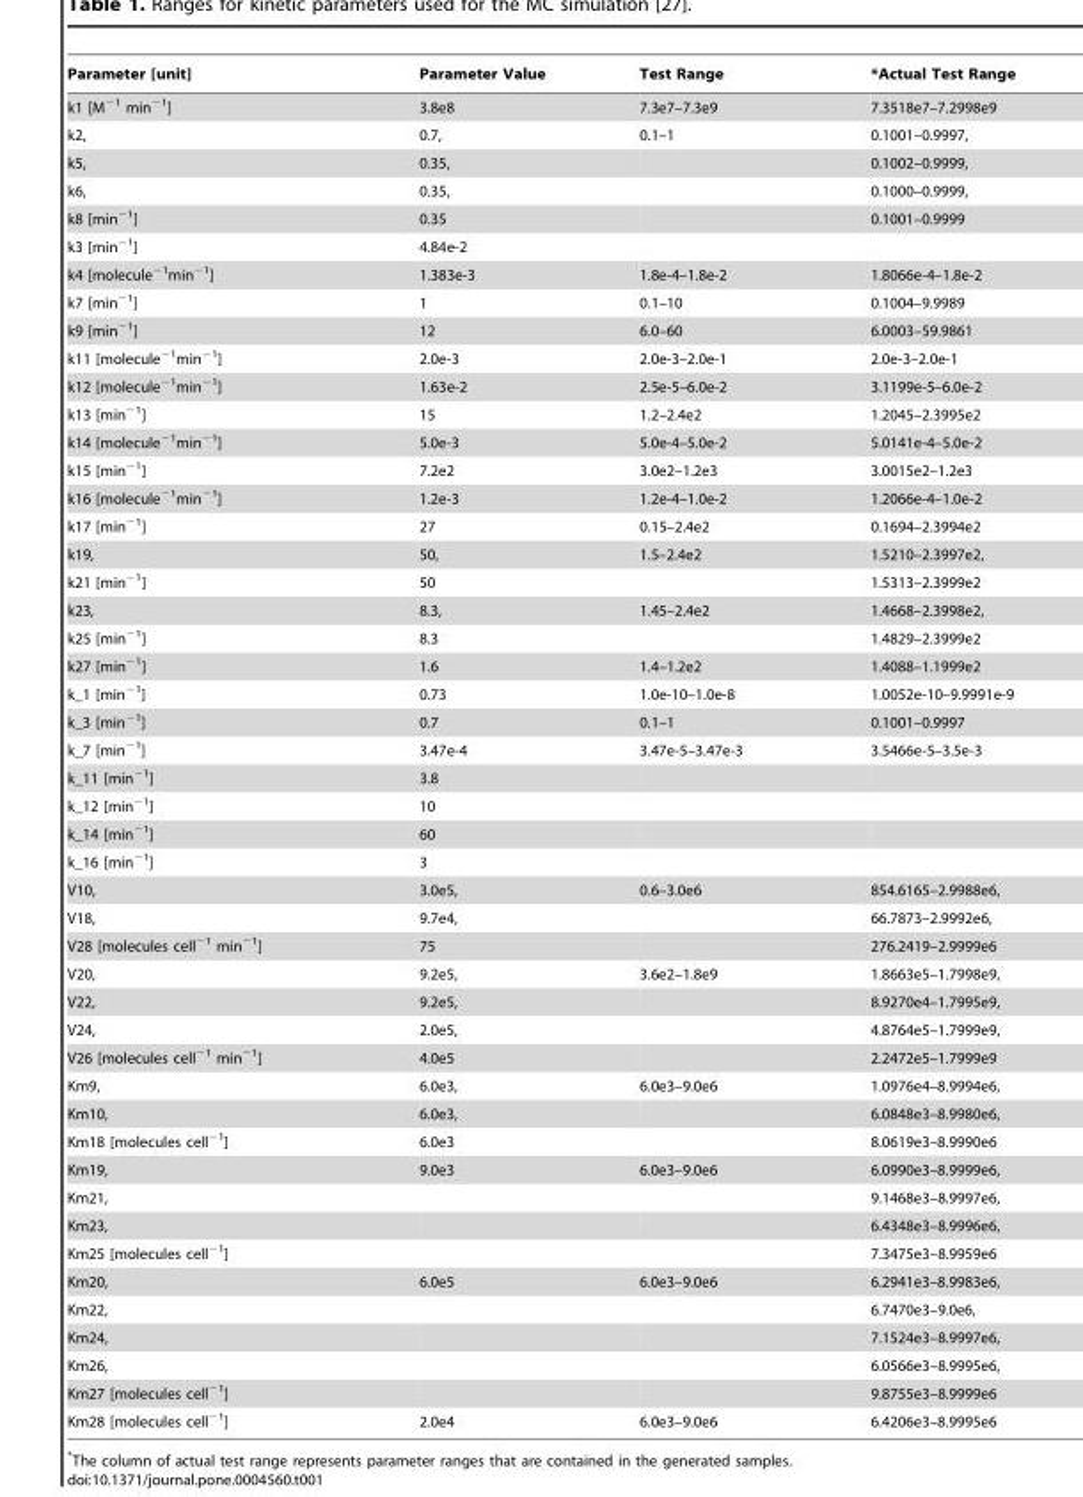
<table><thead><tr><td>Parameter [unit]</td><td>Parameter Value</td><td>Test Range</td><td>*Actual Test Range</td></tr></thead><tbody><tr><td>k1 [M<sup>−1</sup> min<sup>−1</sup>]</td><td>3.8e8</td><td>7.3e7–7.3e9</td><td>7.3518e7–7.2998e9</td></tr><tr><td>k2,</td><td>0.7,</td><td>0.1–1</td><td>0.1001–0.9997,</td></tr><tr><td>k5,</td><td>0.35,</td><td></td><td>0.1002–0.9999,</td></tr><tr><td>k6,</td><td>0.35,</td><td></td><td>0.1000–0.9999,</td></tr><tr><td>k8 [min<sup>−1</sup>]</td><td>0.35</td><td></td><td>0.1001–0.9999</td></tr><tr><td>k3 [min<sup>−1</sup>]</td><td>4.84e-2</td><td></td><td></td></tr><tr><td>k4 [molecule<sup>−1</sup>min<sup>−1</sup>]</td><td>1.383e-3</td><td>1.8e-4–1.8e-2</td><td>1.8066e-4–1.8e-2</td></tr><tr><td>k7 [min<sup>−1</sup>]</td><td>1</td><td>0.1–10</td><td>0.1004–9.9989</td></tr><tr><td>k9 [min<sup>−1</sup>]</td><td>12</td><td>6.0–60</td><td>6.0003–59.9861</td></tr><tr><td>k11 [molecule<sup>−1</sup>min<sup>−1</sup>]</td><td>2.0e-3</td><td>2.0e-3–2.0e-1</td><td>2.0e-3–2.0e-1</td></tr><tr><td>k12 [molecule<sup>−1</sup>min<sup>−1</sup>]</td><td>1.63e-2</td><td>2.5e-5–6.0e-2</td><td>3.1199e-5–6.0e-2</td></tr><tr><td>k13 [min<sup>−1</sup>]</td><td>15</td><td>1.2–2.4e2</td><td>1.2045–2.3995e2</td></tr><tr><td>k14 [molecule<sup>−1</sup>min<sup>−1</sup>]</td><td>5.0e-3</td><td>5.0e-4–5.0e-2</td><td>5.0141e-4–5.0e-2</td></tr><tr><td>k15 [min<sup>−1</sup>]</td><td>7.2e2</td><td>3.0e2–1.2e3</td><td>3.0015e2–1.2e3</td></tr><tr><td>k16 [molecule<sup>−1</sup>min<sup>−1</sup>]</td><td>1.2e-3</td><td>1.2e-4–1.0e-2</td><td>1.2066e-4–1.0e-2</td></tr><tr><td>k17 [min<sup>−1</sup>]</td><td>27</td><td>0.15–2.4e2</td><td>0.1694–2.3994e2</td></tr><tr><td>k19,</td><td>50,</td><td>1.5–2.4e2</td><td>1.5210–2.3997e2,</td></tr><tr><td>k21 [min<sup>−1</sup>]</td><td>50</td><td></td><td>1.5313–2.3999e2</td></tr><tr><td>k23,</td><td>8.3,</td><td>1.45–2.4e2</td><td>1.4668–2.3998e2,</td></tr><tr><td>k25 [min<sup>−1</sup>]</td><td>8.3</td><td></td><td>1.4829–2.3999e2</td></tr><tr><td>k27 [min<sup>−1</sup>]</td><td>1.6</td><td>1.4–1.2e2</td><td>1.4088–1.1999e2</td></tr><tr><td>k_1 [min<sup>−1</sup>]</td><td>0.73</td><td>1.0e-10–1.0e-8</td><td>1.0052e-10–9.9991e-9</td></tr><tr><td>k_3 [min<sup>−1</sup>]</td><td>0.7</td><td>0.1–1</td><td>0.1001–0.9997</td></tr><tr><td>k_7 [min<sup>−1</sup>]</td><td>3.47e-4</td><td>3.47e-5–3.47e-3</td><td>3.5466e-5–3.5e-3</td></tr><tr><td>k_11 [min<sup>−1</sup>]</td><td>3.8</td><td></td><td></td></tr><tr><td>k_12 [min<sup>−1</sup>]</td><td>10</td><td></td><td></td></tr><tr><td>k_14 [min<sup>−1</sup>]</td><td>60</td><td></td><td></td></tr><tr><td>k_16 [min<sup>−1</sup>]</td><td>3</td><td></td><td></td></tr><tr><td>V10,</td><td>3.0e5,</td><td>0.6–3.0e6</td><td>854.6165–2.9988e6,</td></tr><tr><td>V18,</td><td>9.7e4,</td><td></td><td>66.7873–2.9992e6,</td></tr><tr><td>V28 [molecules cell<sup>−1</sup> min<sup>−1</sup>]</td><td>75</td><td></td><td>276.2419–2.9999e6</td></tr><tr><td>V20,</td><td>9.2e5,</td><td>3.6e2–1.8e9</td><td>1.8663e5–1.7998e9,</td></tr><tr><td>V22,</td><td>9.2e5,</td><td></td><td>8.9270e4–1.7995e9,</td></tr><tr><td>V24,</td><td>2.0e5,</td><td></td><td>4.8764e5–1.7999e9,</td></tr><tr><td>V26 [molecules cell<sup>−1</sup> min<sup>−1</sup>]</td><td>4.0e5</td><td></td><td>2.2472e5–1.7999e9</td></tr><tr><td>Km9,</td><td>6.0e3,</td><td>6.0e3–9.0e6</td><td>1.0976e4–8.9994e6,</td></tr><tr><td>Km10,</td><td>6.0e3,</td><td></td><td>6.0848e3–8.9980e6,</td></tr><tr><td>Km18 [molecules cell<sup>−1</sup>]</td><td>6.0e3</td><td></td><td>8.0619e3–8.9990e6</td></tr><tr><td>Km19,</td><td>9.0e3</td><td>6.0e3–9.0e6</td><td>6.0990e3–8.9999e6,</td></tr><tr><td>Km21,</td><td></td><td></td><td>9.1468e3–8.9997e6,</td></tr><tr><td>Km23,</td><td></td><td></td><td>6.4348e3–8.9996e6,</td></tr><tr><td>Km25 [molecules cell<sup>−1</sup>]</td><td></td><td></td><td>7.3475e3–8.9959e6</td></tr><tr><td>Km20,</td><td>6.0e5</td><td>6.0e3–9.0e6</td><td>6.2941e3–8.9983e6,</td></tr><tr><td>Km22,</td><td></td><td></td><td>6.7470e3–9.0e6,</td></tr><tr><td>Km24,</td><td></td><td></td><td>7.1524e3–8.9997e6,</td></tr><tr><td>Km26,</td><td></td><td></td><td>6.0566e3–8.9995e6,</td></tr><tr><td>Km27 [molecules cell<sup>−1</sup>]</td><td></td><td></td><td>9.8755e3–8.9999e6</td></tr><tr><td>Km28 [molecules cell<sup>−1</sup>]</td><td>2.0e4</td><td>6.0e3–9.0e6</td><td>6.4206e3–8.9995e6</td></tr></tbody></table>